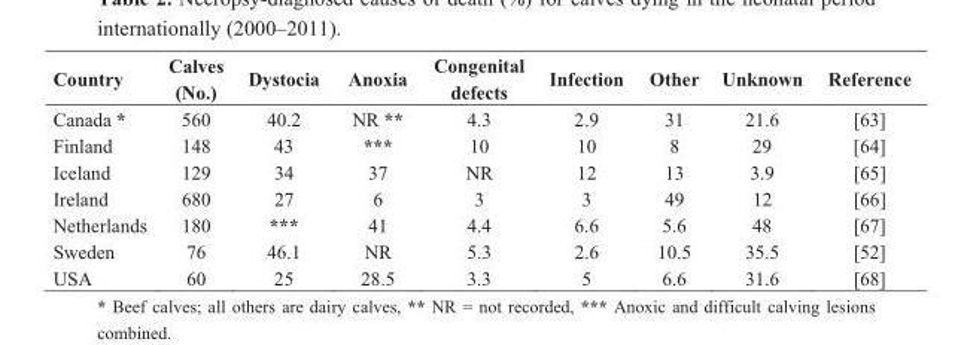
<table><thead><tr><td>Country</td><td>Calves (No.)</td><td>Dystocia</td><td>Anoxia</td><td>Congenital defects</td><td>Infection</td><td>Other</td><td>Unknown</td><td>Reference</td></tr></thead><tbody><tr><td>Canada *</td><td>560</td><td>40.2</td><td>NR **</td><td>4.3</td><td>2.9</td><td>31</td><td>21.6</td><td>[63]</td></tr><tr><td>Finland</td><td>148</td><td>43</td><td>***</td><td>10</td><td>10</td><td>8</td><td>29</td><td>[64]</td></tr><tr><td>Iceland</td><td>129</td><td>34</td><td>37</td><td>NR</td><td>12</td><td>13</td><td>3.9</td><td>[65]</td></tr><tr><td>Ireland</td><td>680</td><td>27</td><td>6</td><td>3</td><td>3</td><td>49</td><td>12</td><td>[66]</td></tr><tr><td>Netherlands</td><td>180</td><td>***</td><td>41</td><td>4.4</td><td>6.6</td><td>5.6</td><td>48</td><td>[67]</td></tr><tr><td>Sweden</td><td>76</td><td>46.1</td><td>NR</td><td>5.3</td><td>2.6</td><td>10.5</td><td>35.5</td><td>[52]</td></tr><tr><td>USA</td><td>60</td><td>25</td><td>28.5</td><td>3.3</td><td>5</td><td>6.6</td><td>31.6</td><td>[68]</td></tr></tbody></table>